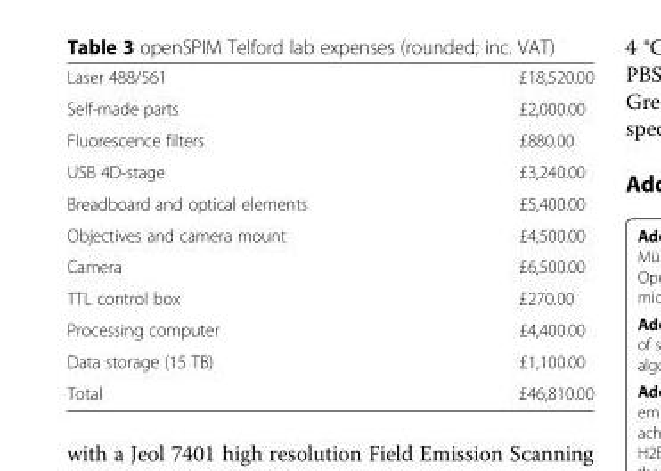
<table><tbody><tr><td>Laser 488/561</td><td>£18,520.00</td></tr><tr><td>Self-made parts</td><td>£2,000.00</td></tr><tr><td>Fluorescence filters</td><td>£880.00</td></tr><tr><td>USB 4D-stage</td><td>£3,240.00</td></tr><tr><td>Breadboard and optical elements</td><td>£5,400.00</td></tr><tr><td>Objectives and camera mount</td><td>£4,500.00</td></tr><tr><td>Camera</td><td>£6,500.00</td></tr><tr><td>TTL control box</td><td>£270.00</td></tr><tr><td>Processing computer</td><td>£4,400.00</td></tr><tr><td>Data storage (15 TB)</td><td>£1,100.00</td></tr><tr><td>Total</td><td>£46,810.00</td></tr></tbody></table>